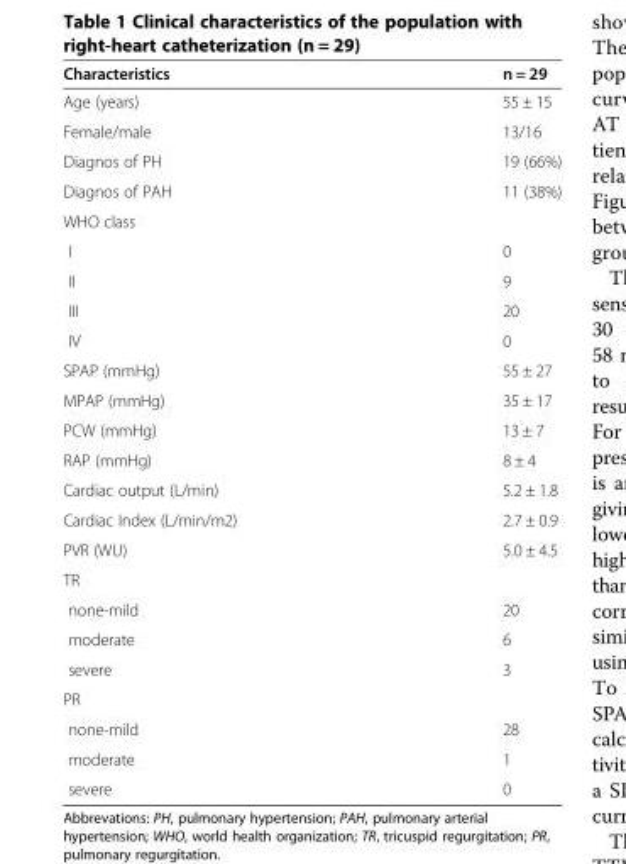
<table><thead><tr><td>Characteristics</td><td>n = 29</td></tr></thead><tbody><tr><td>Age (years)</td><td>55 ± 15</td></tr><tr><td>Female/male</td><td>13/16</td></tr><tr><td>Diagnos of PH</td><td>19 (66%)</td></tr><tr><td>Diagnos of PAH</td><td>11 (38%)</td></tr><tr><td colspan="2">WHO class</td></tr><tr><td>I</td><td>0</td></tr><tr><td>II</td><td>9</td></tr><tr><td>III</td><td>20</td></tr><tr><td>IV</td><td>0</td></tr><tr><td>SPAP (mmHg)</td><td>55 ± 27</td></tr><tr><td>MPAP (mmHg)</td><td>35 ± 17</td></tr><tr><td>PCW (mmHg)</td><td>13 ± 7</td></tr><tr><td>RAP (mmHg)</td><td>8 ± 4</td></tr><tr><td>Cardiac output (L/min)</td><td>5.2 ± 1.8</td></tr><tr><td>Cardiac Index (L/min/m2)</td><td>2.7 ± 0.9</td></tr><tr><td>PVR (WU)</td><td>5.0 ± 4.5</td></tr><tr><td colspan="2">TR</td></tr><tr><td>none-mild</td><td>20</td></tr><tr><td>moderate</td><td>6</td></tr><tr><td>severe</td><td>3</td></tr><tr><td colspan="2">PR</td></tr><tr><td>none-mild</td><td>28</td></tr><tr><td>moderate</td><td>1</td></tr><tr><td>severe</td><td>0</td></tr></tbody></table>